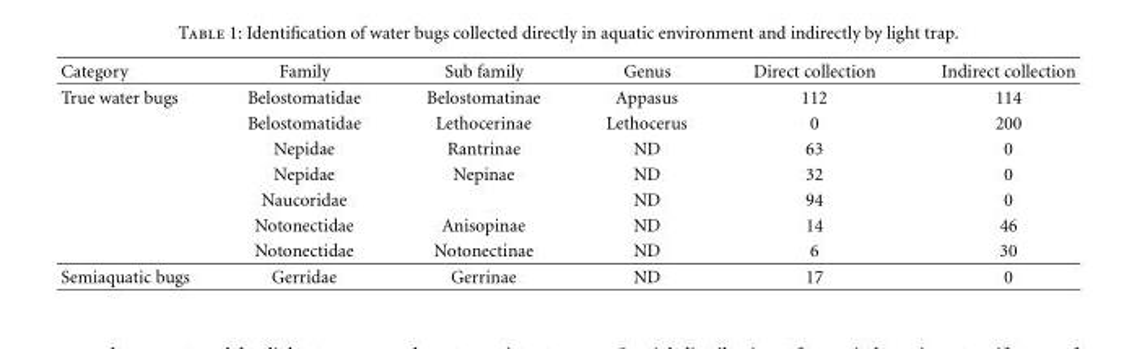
<table><thead><tr><td>Category</td><td>Family</td><td>Sub family</td><td>Genus</td><td>Direct collection</td><td>Indirect collection</td></tr></thead><tbody><tr><td rowspan="7">True water bugs</td><td>Belostomatidae</td><td>Belostomatinae</td><td>Appasus</td><td>112</td><td>114</td></tr><tr><td>Belostomatidae</td><td>Lethocerinae</td><td>Lethocerus</td><td>0</td><td>200</td></tr><tr><td>Nepidae</td><td>Rantrinae</td><td>ND</td><td>63</td><td>0</td></tr><tr><td>Nepidae</td><td>Nepinae</td><td>ND</td><td>32</td><td>0</td></tr><tr><td>Naucoridae</td><td></td><td>ND</td><td>94</td><td>0</td></tr><tr><td>Notonectidae</td><td>Anisopinae</td><td>ND</td><td>14</td><td>46</td></tr><tr><td>Notonectidae</td><td>Notonectinae</td><td>ND</td><td>6</td><td>30</td></tr><tr><td>Semiaquatic bugs</td><td>Gerridae</td><td>Gerrinae</td><td>ND</td><td>17</td><td>0</td></tr></tbody></table>